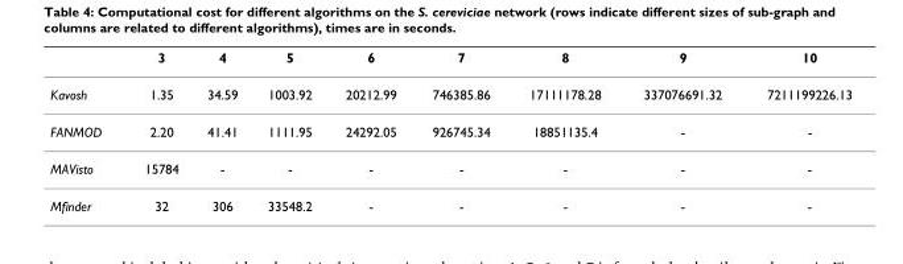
<table><thead><tr><td></td><td>3</td><td>4</td><td>5</td><td>6</td><td>7</td><td>8</td><td>9</td><td>10</td></tr></thead><tbody><tr><td>Kavosh</td><td>1.35</td><td>34.59</td><td>1003.92</td><td>20212.99</td><td>746385.86</td><td>17111178.28</td><td>337076691.32</td><td>7211199226.13</td></tr><tr><td>FANMOD</td><td>2.20</td><td>41.41</td><td>1111.95</td><td>24292.05</td><td>926745.34</td><td>18851135.4</td><td>-</td><td>-</td></tr><tr><td>MAVisto</td><td>15784</td><td>-</td><td>-</td><td>-</td><td>-</td><td>-</td><td>-</td><td>-</td></tr><tr><td>Mfinder</td><td>32</td><td>306</td><td>33548.2</td><td>-</td><td>-</td><td>-</td><td>-</td><td>-</td></tr></tbody></table>